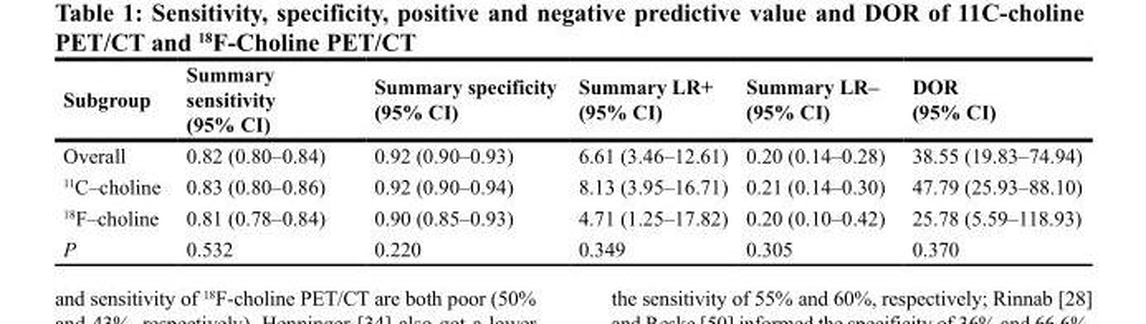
<table><thead><tr><td>Subgroup</td><td>Summary sensitivity (95% CI)</td><td>Summary specificity (95% CI)</td><td>Summary LR+ (95% CI)</td><td>Summary LR– (95% CI)</td><td>DOR (95% CI)</td></tr></thead><tbody><tr><td>Overall</td><td>0.82 (0.80–0.84)</td><td>0.92 (0.90–0.93)</td><td>6.61 (3.46–12.61)</td><td>0.20 (0.14–0.28)</td><td>38.55 (19.83–74.94)</td></tr><tr><td><sup>11</sup>C–choline</td><td>0.83 (0.80–0.86)</td><td>0.92 (0.90–0.94)</td><td>8.13 (3.95–16.71)</td><td>0.21 (0.14–0.30)</td><td>47.79 (25.93–88.10)</td></tr><tr><td><sup>18</sup>F–choline</td><td>0.81 (0.78–0.84)</td><td>0.90 (0.85–0.93)</td><td>4.71 (1.25–17.82)</td><td>0.20 (0.10–0.42)</td><td>25.78 (5.59–118.93)</td></tr><tr><td>P</td><td>0.532</td><td>0.220</td><td>0.349</td><td>0.305</td><td>0.370</td></tr></tbody></table>